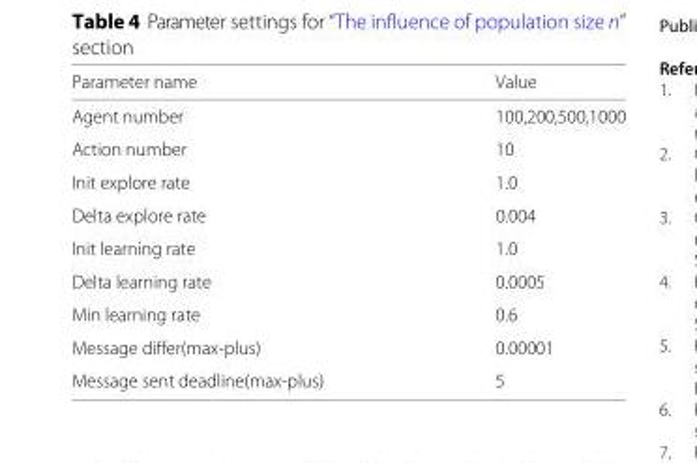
<table><thead><tr><td>Parameter name</td><td>Value</td></tr></thead><tbody><tr><td>Agent number</td><td>100,200,500,1000</td></tr><tr><td>Action number</td><td>10</td></tr><tr><td>Init explore rate</td><td>1.0</td></tr><tr><td>Delta explore rate</td><td>0.004</td></tr><tr><td>Init learning rate</td><td>1.0</td></tr><tr><td>Delta learning rate</td><td>0.0005</td></tr><tr><td>Min learning rate</td><td>0.6</td></tr><tr><td>Message differ(max-plus)</td><td>0.00001</td></tr><tr><td>Message sent deadline(max-plus)</td><td>5</td></tr></tbody></table>